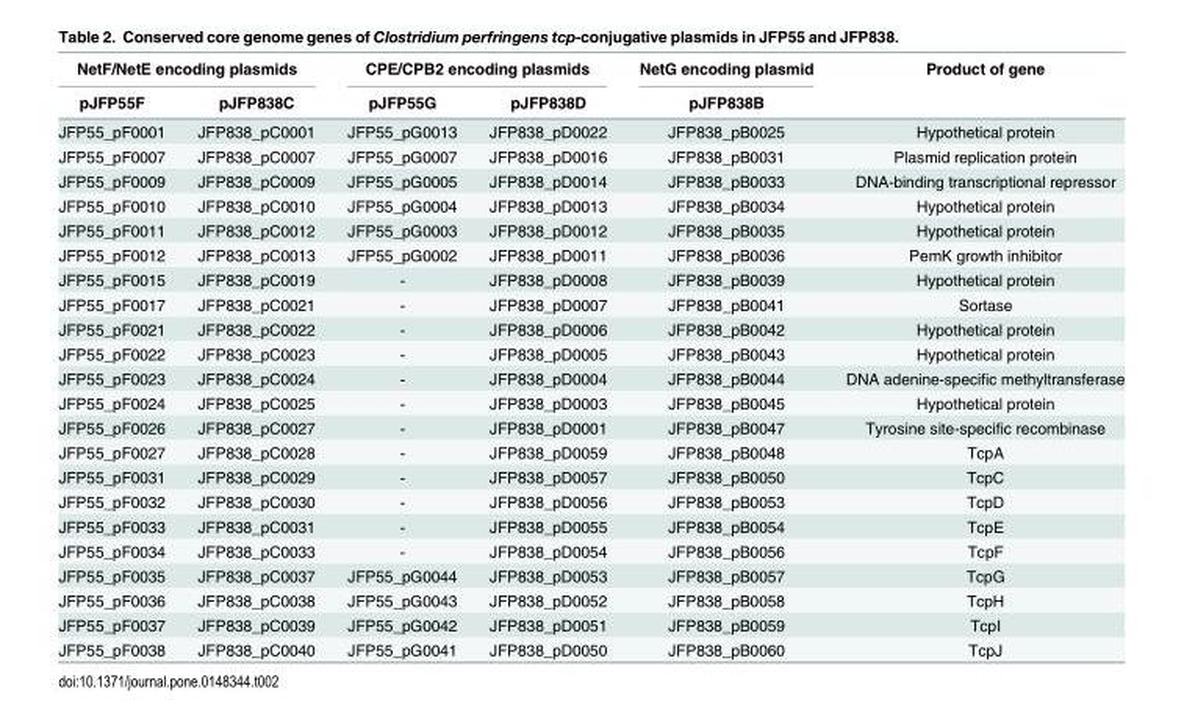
<table><thead><tr><td colspan="2">NetF/NetE encoding plasmids</td><td colspan="2">CPE/CPB2 encoding plasmids</td><td rowspan="2">NetG encoding plasmid pJFP838B</td><td rowspan="2">Product of gene</td></tr><tr><td>pJFP55F</td><td>pJFP838C</td><td>pJFP55G</td><td>pJFP838D</td></tr></thead><tbody><tr><td>JFP55_pF0001</td><td>JFP838_pC0001</td><td>JFP55_pG0013</td><td>JFP838_pD0022</td><td>JFP838_pB0025</td><td>Hypothetical protein</td></tr><tr><td>JFP55_pF0007</td><td>JFP838_pC0007</td><td>JFP55_pG0007</td><td>JFP838_pD0016</td><td>JFP838_pB0031</td><td>Plasmid replication protein</td></tr><tr><td>JFP55_pF0009</td><td>JFP838_pC0009</td><td>JFP55_pG0005</td><td>JFP838_pD0014</td><td>JFP838_pB0033</td><td>DNA-binding transcriptional repressor</td></tr><tr><td>JFP55_pF0010</td><td>JFP838_pC0010</td><td>JFP55_pG0004</td><td>JFP838_pD0013</td><td>JFP838_pB0034</td><td>Hypothetical protein</td></tr><tr><td>JFP55_pF0011</td><td>JFP838_pC0012</td><td>JFP55_pG0003</td><td>JFP838_pD0012</td><td>JFP838_pB0035</td><td>Hypothetical protein</td></tr><tr><td>JFP55_pF0012</td><td>JFP838_pC0013</td><td>JFP55_pG0002</td><td>JFP838_pD0011</td><td>JFP838_pB0036</td><td>PemK growth inhibitor</td></tr><tr><td>JFP55_pF0015</td><td>JFP838_pC0019</td><td>-</td><td>JFP838_pD0008</td><td>JFP838_pB0039</td><td>Hypothetical protein</td></tr><tr><td>JFP55_pF0017</td><td>JFP838_pC0021</td><td>-</td><td>JFP838_pD0007</td><td>JFP838_pB0041</td><td>Sortase</td></tr><tr><td>JFP55_pF0021</td><td>JFP838_pC0022</td><td>-</td><td>JFP838_pD0006</td><td>JFP838_pB0042</td><td>Hypothetical protein</td></tr><tr><td>JFP55_pF0022</td><td>JFP838_pC0023</td><td>-</td><td>JFP838_pD0005</td><td>JFP838_pB0043</td><td>Hypothetical protein</td></tr><tr><td>JFP55_pF0023</td><td>JFP838_pC0024</td><td>-</td><td>JFP838_pD0004</td><td>JFP838_pB0044</td><td>DNA adenine-specific methyltransferase</td></tr><tr><td>JFP55_pF0024</td><td>JFP838_pC0025</td><td>-</td><td>JFP838_pD0003</td><td>JFP838_pB0045</td><td>Hypothetical protein</td></tr><tr><td>JFP55_pF0026</td><td>JFP838_pC0027</td><td>-</td><td>JFP838_pD0001</td><td>JFP838_pB0047</td><td>Tyrosine site-specific recombinase</td></tr><tr><td>JFP55_pF0027</td><td>JFP838_pC0028</td><td>-</td><td>JFP838_pD0059</td><td>JFP838_pB0048</td><td>TcpA</td></tr><tr><td>JFP55_pF0031</td><td>JFP838_pC0029</td><td>-</td><td>JFP838_pD0057</td><td>JFP838_pB0050</td><td>TcpC</td></tr><tr><td>JFP55_pF0032</td><td>JFP838_pC0030</td><td>-</td><td>JFP838_pD0056</td><td>JFP838_pB0053</td><td>TcpD</td></tr><tr><td>JFP55_pF0033</td><td>JFP838_pC0031</td><td>-</td><td>JFP838_pD0055</td><td>JFP838_pB0054</td><td>TcpE</td></tr><tr><td>JFP55_pF0034</td><td>JFP838_pC0033</td><td>-</td><td>JFP838_pD0054</td><td>JFP838_pB0056</td><td>TcpF</td></tr><tr><td>JFP55_pF0035</td><td>JFP838_pC0037</td><td>JFP55_pG0044</td><td>JFP838_pD0053</td><td>JFP838_pB0057</td><td>TcpG</td></tr><tr><td>JFP55_pF0036</td><td>JFP838_pC0038</td><td>JFP55_pG0043</td><td>JFP838_pD0052</td><td>JFP838_pB0058</td><td>TcpH</td></tr><tr><td>JFP55_pF0037</td><td>JFP838_pC0039</td><td>JFP55_pG0042</td><td>JFP838_pD0051</td><td>JFP838_pB0059</td><td>TcpI</td></tr><tr><td>JFP55_pF0038</td><td>JFP838_pC0040</td><td>JFP55_pG0041</td><td>JFP838_pD0050</td><td>JFP838_pB0060</td><td>TcpJ</td></tr></tbody></table>